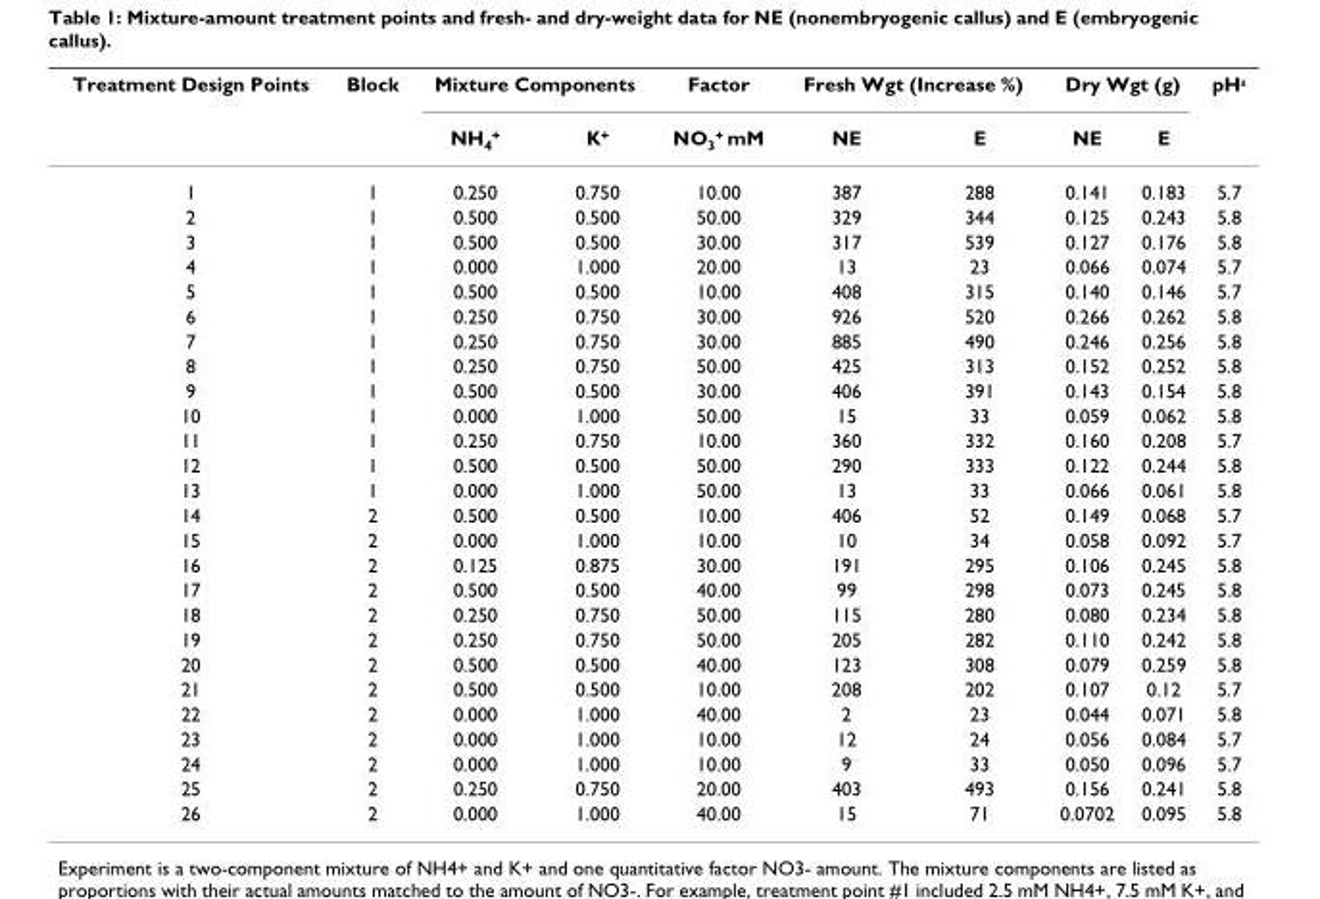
<table><thead><tr><td rowspan="2">Treatment Design Points</td><td rowspan="2">Block</td><td colspan="2">Mixture Components</td><td rowspan="2">Factor NO<sub>3</sub><sup>+</sup> mM</td><td colspan="2">Fresh Wgt (Increase %)</td><td colspan="2">Dry Wgt (g)</td><td rowspan="2">pH<sup>a</sup></td></tr><tr><td>NH<sub>4</sub><sup>+</sup></td><td>K<sup>+</sup></td><td>NE</td><td>E</td><td>NE</td><td>E</td></tr></thead><tbody><tr><td>1</td><td>1</td><td>0.250</td><td>0.750</td><td>10.00</td><td>387</td><td>288</td><td>0.141</td><td>0.183</td><td>5.7</td></tr><tr><td>2</td><td>1</td><td>0.500</td><td>0.500</td><td>50.00</td><td>329</td><td>344</td><td>0.125</td><td>0.243</td><td>5.8</td></tr><tr><td>3</td><td>1</td><td>0.500</td><td>0.500</td><td>30.00</td><td>317</td><td>539</td><td>0.127</td><td>0.176</td><td>5.8</td></tr><tr><td>4</td><td>1</td><td>0.000</td><td>1.000</td><td>20.00</td><td>13</td><td>23</td><td>0.066</td><td>0.074</td><td>5.7</td></tr><tr><td>5</td><td>1</td><td>0.500</td><td>0.500</td><td>10.00</td><td>408</td><td>315</td><td>0.140</td><td>0.146</td><td>5.7</td></tr><tr><td>6</td><td>1</td><td>0.250</td><td>0.750</td><td>30.00</td><td>926</td><td>520</td><td>0.266</td><td>0.262</td><td>5.8</td></tr><tr><td>7</td><td>1</td><td>0.250</td><td>0.750</td><td>30.00</td><td>885</td><td>490</td><td>0.246</td><td>0.256</td><td>5.8</td></tr><tr><td>8</td><td>1</td><td>0.250</td><td>0.750</td><td>50.00</td><td>425</td><td>313</td><td>0.152</td><td>0.252</td><td>5.8</td></tr><tr><td>9</td><td>1</td><td>0.500</td><td>0.500</td><td>30.00</td><td>406</td><td>391</td><td>0.143</td><td>0.154</td><td>5.8</td></tr><tr><td>10</td><td>1</td><td>0.000</td><td>1.000</td><td>50.00</td><td>15</td><td>33</td><td>0.059</td><td>0.062</td><td>5.8</td></tr><tr><td>11</td><td>1</td><td>0.250</td><td>0.750</td><td>10.00</td><td>360</td><td>332</td><td>0.160</td><td>0.208</td><td>5.7</td></tr><tr><td>12</td><td>1</td><td>0.500</td><td>0.500</td><td>50.00</td><td>290</td><td>333</td><td>0.122</td><td>0.244</td><td>5.8</td></tr><tr><td>13</td><td>1</td><td>0.000</td><td>1.000</td><td>50.00</td><td>13</td><td>33</td><td>0.066</td><td>0.061</td><td>5.8</td></tr><tr><td>14</td><td>2</td><td>0.500</td><td>0.500</td><td>10.00</td><td>406</td><td>52</td><td>0.149</td><td>0.068</td><td>5.7</td></tr><tr><td>15</td><td>2</td><td>0.000</td><td>1.000</td><td>10.00</td><td>10</td><td>34</td><td>0.058</td><td>0.092</td><td>5.7</td></tr><tr><td>16</td><td>2</td><td>0.125</td><td>0.875</td><td>30.00</td><td>191</td><td>295</td><td>0.106</td><td>0.245</td><td>5.8</td></tr><tr><td>17</td><td>2</td><td>0.500</td><td>0.500</td><td>40.00</td><td>99</td><td>298</td><td>0.073</td><td>0.245</td><td>5.8</td></tr><tr><td>18</td><td>2</td><td>0.250</td><td>0.750</td><td>50.00</td><td>115</td><td>280</td><td>0.080</td><td>0.234</td><td>5.8</td></tr><tr><td>19</td><td>2</td><td>0.250</td><td>0.750</td><td>50.00</td><td>205</td><td>282</td><td>0.110</td><td>0.242</td><td>5.8</td></tr><tr><td>20</td><td>2</td><td>0.500</td><td>0.500</td><td>40.00</td><td>123</td><td>308</td><td>0.079</td><td>0.259</td><td>5.8</td></tr><tr><td>21</td><td>2</td><td>0.500</td><td>0.500</td><td>10.00</td><td>208</td><td>202</td><td>0.107</td><td>0.12</td><td>5.7</td></tr><tr><td>22</td><td>2</td><td>0.000</td><td>1.000</td><td>40.00</td><td>2</td><td>23</td><td>0.044</td><td>0.071</td><td>5.8</td></tr><tr><td>23</td><td>2</td><td>0.000</td><td>1.000</td><td>10.00</td><td>12</td><td>24</td><td>0.056</td><td>0.084</td><td>5.7</td></tr><tr><td>24</td><td>2</td><td>0.000</td><td>1.000</td><td>10.00</td><td>9</td><td>33</td><td>0.050</td><td>0.096</td><td>5.7</td></tr><tr><td>25</td><td>2</td><td>0.250</td><td>0.750</td><td>20.00</td><td>403</td><td>493</td><td>0.156</td><td>0.241</td><td>5.8</td></tr><tr><td>26</td><td>2</td><td>0.000</td><td>1.000</td><td>40.00</td><td>15</td><td>71</td><td>0.0702</td><td>0.095</td><td>5.8</td></tr></tbody></table>